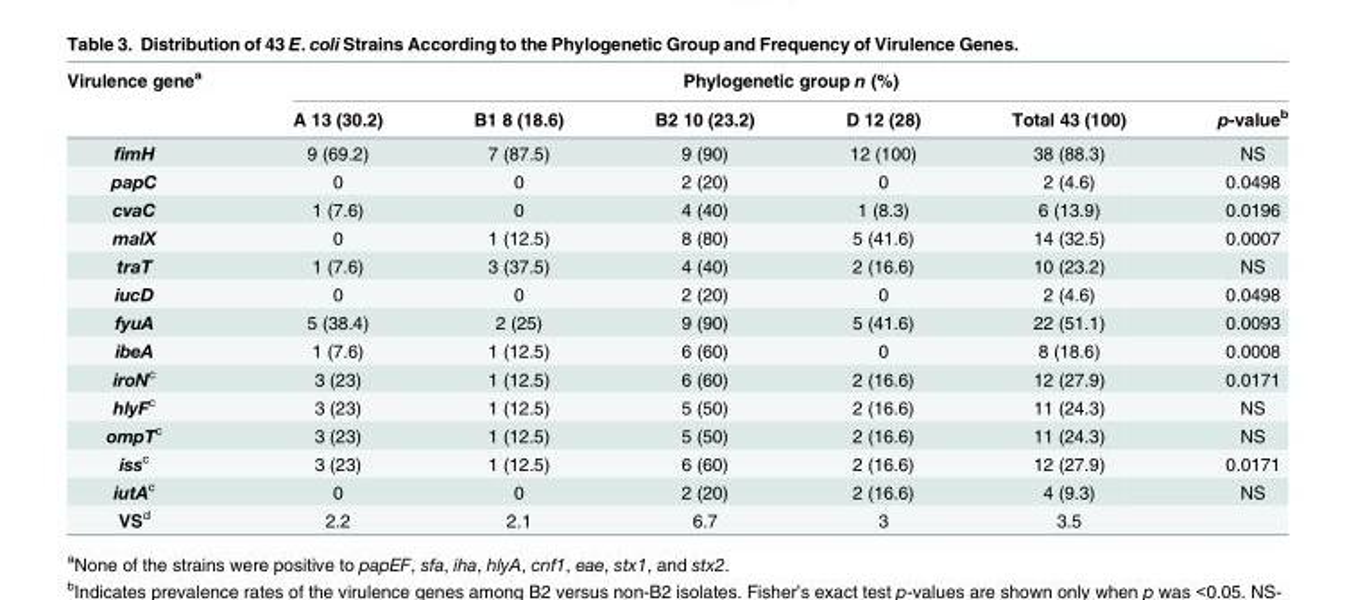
<table><thead><tr><td rowspan="2">Virulence gene<sup>a</sup></td><td colspan="6">Phylogenetic group n (%)</td></tr><tr><td>A 13 (30.2)</td><td>B1 8 (18.6)</td><td>B2 10 (23.2)</td><td>D 12 (28)</td><td>Total 43 (100)</td><td>p-value<sup>b</sup></td></tr></thead><tbody><tr><td>fimH</td><td>9 (69.2)</td><td>7 (87.5)</td><td>9 (90)</td><td>12 (100)</td><td>38 (88.3)</td><td>NS</td></tr><tr><td>papC</td><td>0</td><td>0</td><td>2 (20)</td><td>0</td><td>2 (4.6)</td><td>0.0498</td></tr><tr><td>cvaC</td><td>1 (7.6)</td><td>0</td><td>4 (40)</td><td>1 (8.3)</td><td>6 (13.9)</td><td>0.0196</td></tr><tr><td>malX</td><td>0</td><td>1 (12.5)</td><td>8 (80)</td><td>5 (41.6)</td><td>14 (32.5)</td><td>0.0007</td></tr><tr><td>traT</td><td>1 (7.6)</td><td>3 (37.5)</td><td>4 (40)</td><td>2 (16.6)</td><td>10 (23.2)</td><td>NS</td></tr><tr><td>iucD</td><td>0</td><td>0</td><td>2 (20)</td><td>0</td><td>2 (4.6)</td><td>0.0498</td></tr><tr><td>fyuA</td><td>5 (38.4)</td><td>2 (25)</td><td>9 (90)</td><td>5 (41.6)</td><td>22 (51.1)</td><td>0.0093</td></tr><tr><td>ibeA</td><td>1 (7.6)</td><td>1 (12.5)</td><td>6 (60)</td><td>0</td><td>8 (18.6)</td><td>0.0008</td></tr><tr><td>iroN<sup>c</sup></td><td>3 (23)</td><td>1 (12.5)</td><td>6 (60)</td><td>2 (16.6)</td><td>12 (27.9)</td><td>0.0171</td></tr><tr><td>hlyF<sup>c</sup></td><td>3 (23)</td><td>1 (12.5)</td><td>5 (50)</td><td>2 (16.6)</td><td>11 (24.3)</td><td>NS</td></tr><tr><td>ompT<sup>c</sup></td><td>3 (23)</td><td>1 (12.5)</td><td>5 (50)</td><td>2 (16.6)</td><td>11 (24.3)</td><td>NS</td></tr><tr><td>iss<sup>c</sup></td><td>3 (23)</td><td>1 (12.5)</td><td>6 (60)</td><td>2 (16.6)</td><td>12 (27.9)</td><td>0.0171</td></tr><tr><td>iutA<sup>c</sup></td><td>0</td><td>0</td><td>2 (20)</td><td>2 (16.6)</td><td>4 (9.3)</td><td>NS</td></tr><tr><td>VS<sup>d</sup></td><td>2.2</td><td>2.1</td><td>6.7</td><td>3</td><td>3.5</td><td></td></tr></tbody></table>